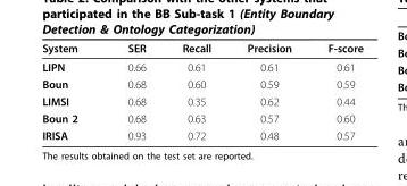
<table><thead><tr><td>System</td><td>SER</td><td>Recall</td><td>Precision</td><td>F-score</td></tr></thead><tbody><tr><td>LIPN</td><td>0.66</td><td>0.61</td><td>0.61</td><td>0.61</td></tr><tr><td>Boun</td><td>0.68</td><td>0.60</td><td>0.59</td><td>0.59</td></tr><tr><td>LIMSI</td><td>0.68</td><td>0.35</td><td>0.62</td><td>0.44</td></tr><tr><td>Boun 2</td><td>0.68</td><td>0.63</td><td>0.57</td><td>0.60</td></tr><tr><td>IRISA</td><td>0.93</td><td>0.72</td><td>0.48</td><td>0.57</td></tr></tbody></table>